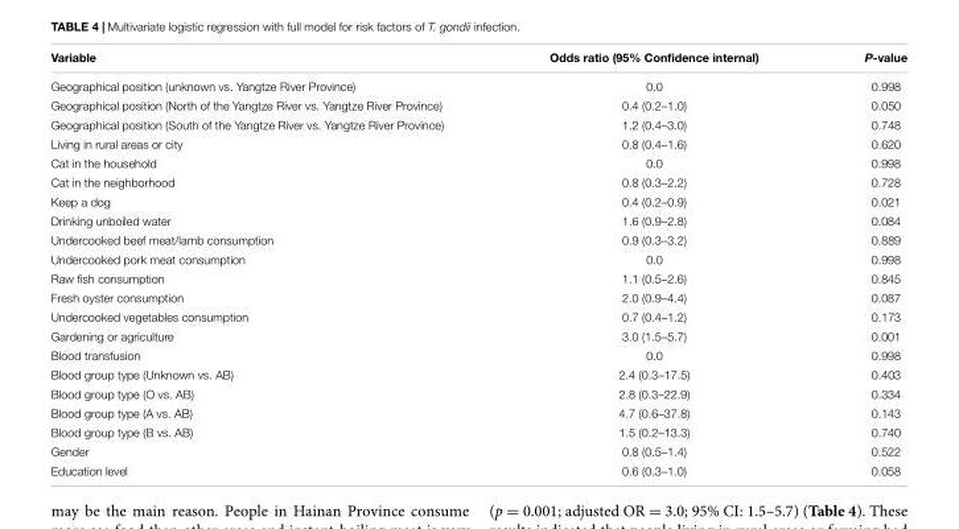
<table><thead><tr><td>Variable</td><td>Odds ratio (95% Confidence internal)</td><td>P-value</td></tr></thead><tbody><tr><td>Geographical position (unknown vs. Yangtze River Province)</td><td>0.0</td><td>0.998</td></tr><tr><td>Geographical position (North of the Yangtze River vs. Yangtze River Province)</td><td>0.4 (0.2–1.0)</td><td>0.050</td></tr><tr><td>Geographical position (South of the Yangtze River vs. Yangtze River Province)</td><td>1.2 (0.4–3.0)</td><td>0.748</td></tr><tr><td>Living in rural areas or city</td><td>0.8 (0.4–1.6)</td><td>0.620</td></tr><tr><td>Cat in the household</td><td>0.0</td><td>0.998</td></tr><tr><td>Cat in the neighborhood</td><td>0.8 (0.3–2.2)</td><td>0.728</td></tr><tr><td>Keep a dog</td><td>0.4 (0.2–0.9)</td><td>0.021</td></tr><tr><td>Drinking unboiled water</td><td>1.6 (0.9–2.8)</td><td>0.084</td></tr><tr><td>Undercooked beef meat/lamb consumption</td><td>0.9 (0.3–3.2)</td><td>0.889</td></tr><tr><td>Undercooked pork meat consumption</td><td>0.0</td><td>0.998</td></tr><tr><td>Raw fish consumption</td><td>1.1 (0.5–2.6)</td><td>0.845</td></tr><tr><td>Fresh oyster consumption</td><td>2.0 (0.9–4.4)</td><td>0.087</td></tr><tr><td>Undercooked vegetables consumption</td><td>0.7 (0.4–1.2)</td><td>0.173</td></tr><tr><td>Gardening or agriculture</td><td>3.0 (1.5–5.7)</td><td>0.001</td></tr><tr><td>Blood transfusion</td><td>0.0</td><td>0.998</td></tr><tr><td>Blood group type (Unknown vs. AB)</td><td>2.4 (0.3–17.5)</td><td>0.403</td></tr><tr><td>Blood group type (O vs. AB)</td><td>2.8 (0.3–22.9)</td><td>0.334</td></tr><tr><td>Blood group type (A vs. AB)</td><td>4.7 (0.6–37.8)</td><td>0.143</td></tr><tr><td>Blood group type (B vs. AB)</td><td>1.5 (0.2–13.3)</td><td>0.740</td></tr><tr><td>Gender</td><td>0.8 (0.5–1.4)</td><td>0.522</td></tr><tr><td>Education level</td><td>0.6 (0.3–1.0)</td><td>0.058</td></tr></tbody></table>